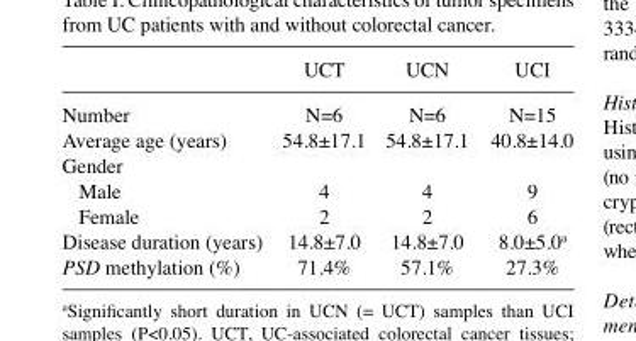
<table><thead><tr><td></td><td>UCT</td><td>UCN</td><td>UCI</td></tr></thead><tbody><tr><td>Number</td><td>N=6</td><td>N=6</td><td>N=15</td></tr><tr><td>Average age (years)</td><td>54.8±17.1</td><td>54.8±17.1</td><td>40.8±14.0</td></tr><tr><td colspan="4">Gender</td></tr><tr><td>Male</td><td>4</td><td>4</td><td>9</td></tr><tr><td>Female</td><td>2</td><td>2</td><td>6</td></tr><tr><td>Disease duration (years)</td><td>14.8±7.0</td><td>14.8±7.0</td><td>8.0±5.0<sup>a</sup></td></tr><tr><td>PSD methylation (%)</td><td>71.4%</td><td>57.1%</td><td>27.3%</td></tr></tbody></table>